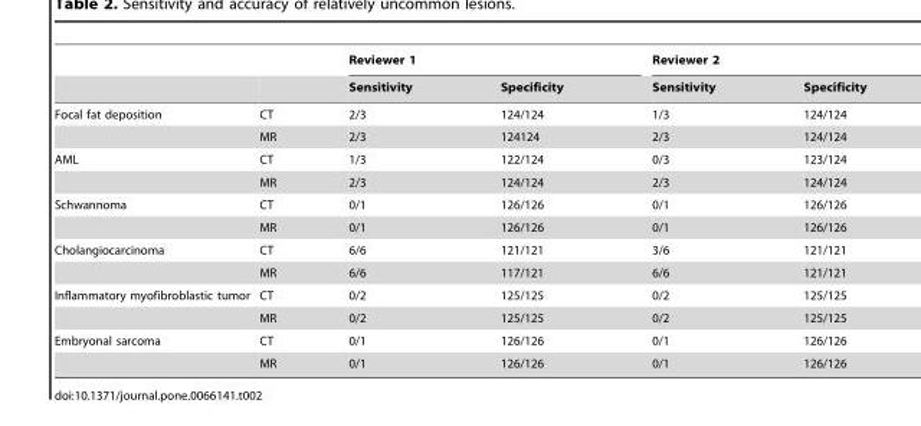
<table><thead><tr><td rowspan="2"></td><td rowspan="2"></td><td colspan="2">Reviewer 1</td><td colspan="2">Reviewer 2</td></tr><tr><td>Sensitivity</td><td>Specificity</td><td>Sensitivity</td><td>Specificity</td></tr></thead><tbody><tr><td rowspan="2">Focal fat deposition</td><td>CT</td><td>2/3</td><td>124/124</td><td>1/3</td><td>124/124</td></tr><tr><td>MR</td><td>2/3</td><td>124124</td><td>2/3</td><td>124/124</td></tr><tr><td rowspan="2">AML</td><td>CT</td><td>1/3</td><td>122/124</td><td>0/3</td><td>123/124</td></tr><tr><td>MR</td><td>2/3</td><td>124/124</td><td>2/3</td><td>124/124</td></tr><tr><td rowspan="2">Schwannoma</td><td>CT</td><td>0/1</td><td>126/126</td><td>0/1</td><td>126/126</td></tr><tr><td>MR</td><td>0/1</td><td>126/126</td><td>0/1</td><td>126/126</td></tr><tr><td rowspan="2">Cholangiocarcinoma</td><td>CT</td><td>6/6</td><td>121/121</td><td>3/6</td><td>121/121</td></tr><tr><td>MR</td><td>6/6</td><td>117/121</td><td>6/6</td><td>121/121</td></tr><tr><td rowspan="2">Inflammatory myofibroblastic tumor</td><td>CT</td><td>0/2</td><td>125/125</td><td>0/2</td><td>125/125</td></tr><tr><td>MR</td><td>0/2</td><td>125/125</td><td>0/2</td><td>125/125</td></tr><tr><td rowspan="2">Embryonal sarcoma</td><td>CT</td><td>0/1</td><td>126/126</td><td>0/1</td><td>126/126</td></tr><tr><td>MR</td><td>0/1</td><td>126/126</td><td>0/1</td><td>126/126</td></tr></tbody></table>